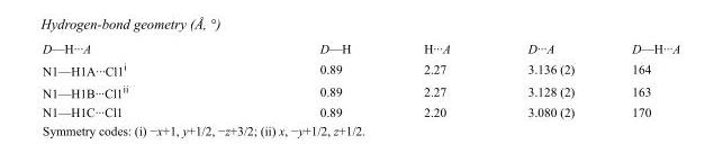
<table><tbody><tr><td>D—H···A</td><td>D—H</td><td>H···A</td><td>D···A</td><td>D—H···A</td></tr><tr><td>N1—H1A···Cl1<sup>i</sup></td><td>0.89</td><td>2.27</td><td>3.136 (2)</td><td>164</td></tr><tr><td>N1—H1B···Cl1<sup>ii</sup></td><td>0.89</td><td>2.27</td><td>3.128 (2)</td><td>163</td></tr><tr><td>N1—H1C···Cl1</td><td>0.89</td><td>2.20</td><td>3.080 (2)</td><td>170</td></tr></tbody></table>